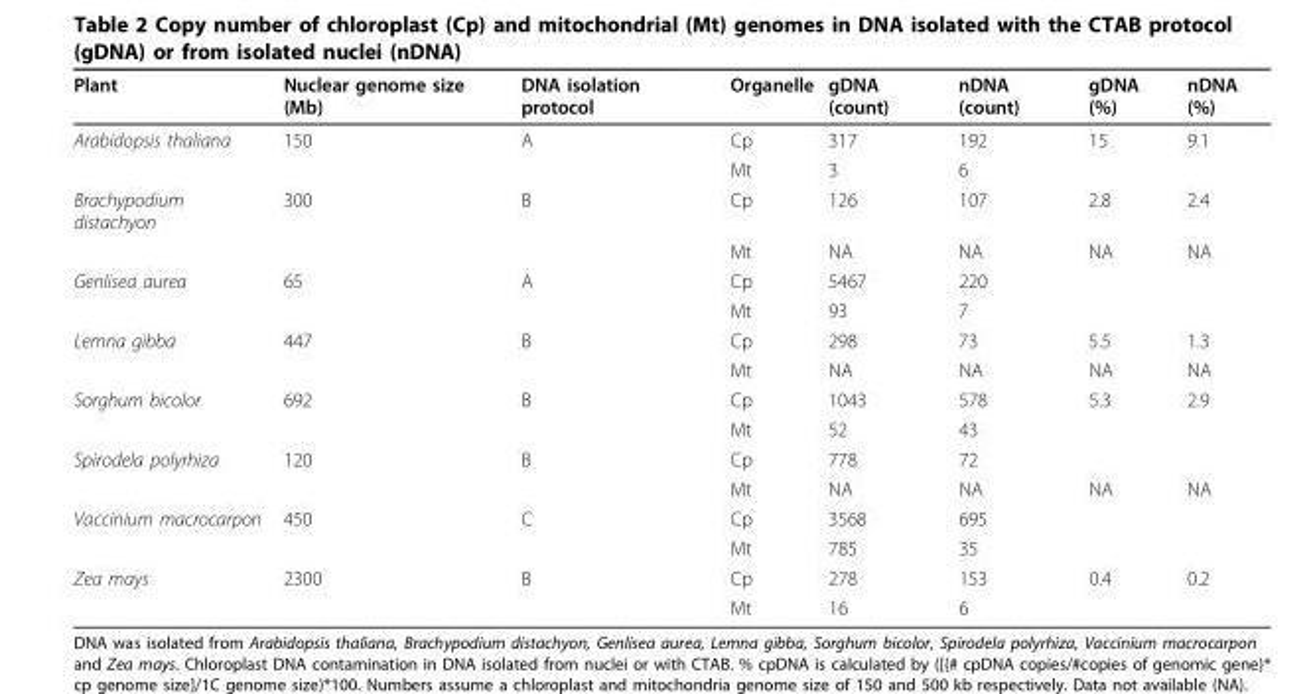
<table><thead><tr><td>Plant</td><td>Nuclear genome size (Mb)</td><td>DNA isolation protocol</td><td>Organelle</td><td>gDNA (count)</td><td>nDNA (count)</td><td>gDNA (%)</td><td>nDNA (%)</td></tr></thead><tbody><tr><td rowspan="2">Arabidopsis thaliana</td><td>150</td><td>A</td><td>Cp</td><td>317</td><td>192</td><td>15</td><td>9.1</td></tr><tr><td></td><td></td><td>Mt</td><td>3</td><td>6</td><td></td><td></td></tr><tr><td rowspan="2">Brachypodium distachyon</td><td>300</td><td>B</td><td>Cp</td><td>126</td><td>107</td><td>2.8</td><td>2.4</td></tr><tr><td></td><td></td><td>Mt</td><td>NA</td><td>NA</td><td>NA</td><td>NA</td></tr><tr><td rowspan="2">Genlisea aurea</td><td>65</td><td>A</td><td>Cp</td><td>5467</td><td>220</td><td></td><td></td></tr><tr><td></td><td></td><td>Mt</td><td>93</td><td>7</td><td></td><td></td></tr><tr><td rowspan="2">Lemna gibba</td><td>447</td><td>B</td><td>Cp</td><td>298</td><td>73</td><td>5.5</td><td>1.3</td></tr><tr><td></td><td></td><td>Mt</td><td>NA</td><td>NA</td><td>NA</td><td>NA</td></tr><tr><td rowspan="2">Sorghum bicolor</td><td>692</td><td>B</td><td>Cp</td><td>1043</td><td>578</td><td>5.3</td><td>2.9</td></tr><tr><td></td><td></td><td>Mt</td><td>52</td><td>43</td><td></td><td></td></tr><tr><td rowspan="2">Spirodela polyrhiza</td><td>120</td><td>B</td><td>Cp</td><td>778</td><td>72</td><td></td><td></td></tr><tr><td></td><td></td><td>Mt</td><td>NA</td><td>NA</td><td>NA</td><td>NA</td></tr><tr><td rowspan="2">Vaccinium macrocarpon</td><td>450</td><td>C</td><td>Cp</td><td>3568</td><td>695</td><td></td><td></td></tr><tr><td></td><td></td><td>Mt</td><td>785</td><td>35</td><td></td><td></td></tr><tr><td rowspan="2">Zea mays</td><td>2300</td><td>B</td><td>Cp</td><td>278</td><td>153</td><td>0.4</td><td>0.2</td></tr><tr><td></td><td></td><td>Mt</td><td>16</td><td>6</td><td></td><td></td></tr></tbody></table>